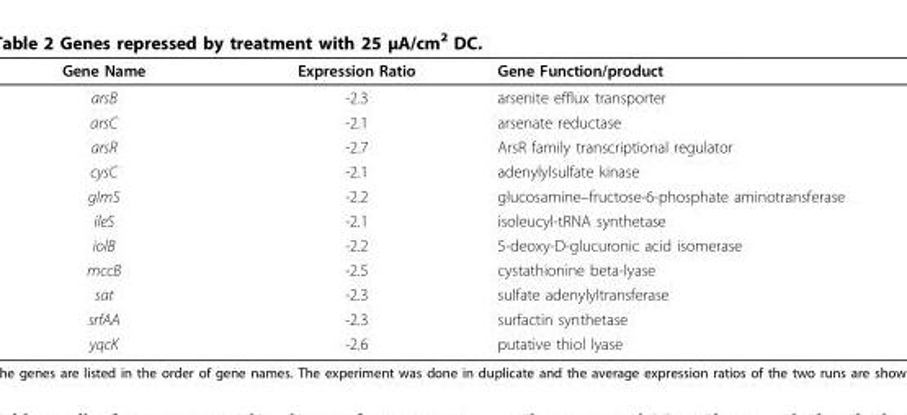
<table><thead><tr><td>Gene Name</td><td>Expression Ratio</td><td>Gene Function/product</td></tr></thead><tbody><tr><td>arsB</td><td>-2.3</td><td>arsenite efflux transporter</td></tr><tr><td>arsC</td><td>-2.1</td><td>arsenate reductase</td></tr><tr><td>arsR</td><td>-2.7</td><td>ArsR family transcriptional regulator</td></tr><tr><td>cysC</td><td>-2.1</td><td>adenylylsulfate kinase</td></tr><tr><td>glmS</td><td>-2.2</td><td>glucosamine–fructose-6-phosphate aminotransferase</td></tr><tr><td>ileS</td><td>-2.1</td><td>isoleucyl-tRNA synthetase</td></tr><tr><td>iolB</td><td>-2.2</td><td>5-deoxy-D-glucuronic acid isomerase</td></tr><tr><td>mccB</td><td>-2.5</td><td>cystathionine beta-lyase</td></tr><tr><td>sat</td><td>-2.3</td><td>sulfate adenylyltransferase</td></tr><tr><td>srfAA</td><td>-2.3</td><td>surfactin synthetase</td></tr><tr><td>yqcK</td><td>-2.6</td><td>putative thiol lyase</td></tr></tbody></table>